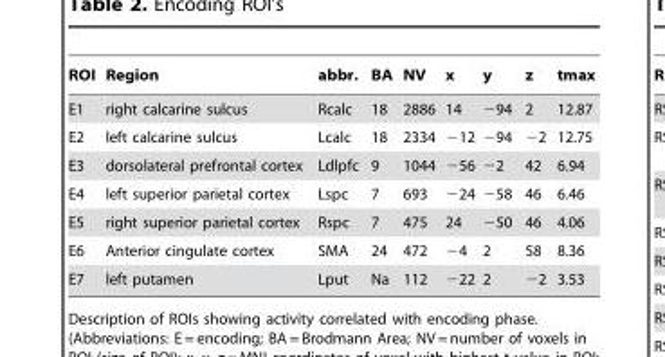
<table><thead><tr><td>ROI</td><td>Region</td><td>abbr.</td><td>BA</td><td>NV</td><td>x</td><td>y</td><td>z</td><td>tmax</td></tr></thead><tbody><tr><td>E1</td><td>right calcarine sulcus</td><td>Rcalc</td><td>18</td><td>2886</td><td>14</td><td>−94</td><td>2</td><td>12.87</td></tr><tr><td>E2</td><td>left calcarine sulcus</td><td>Lcalc</td><td>18</td><td>2334</td><td>−12</td><td>−94</td><td>−2</td><td>12.75</td></tr><tr><td>E3</td><td>dorsolateral prefrontal cortex</td><td>Ldlpfc</td><td>9</td><td>1044</td><td>−56</td><td>−2</td><td>42</td><td>6.94</td></tr><tr><td>E4</td><td>left superior parietal cortex</td><td>Lspc</td><td>7</td><td>693</td><td>−24</td><td>−58</td><td>46</td><td>6.46</td></tr><tr><td>E5</td><td>right superior parietal cortex</td><td>Rspc</td><td>7</td><td>475</td><td>24</td><td>−50</td><td>46</td><td>4.06</td></tr><tr><td>E6</td><td>Anterior cingulate cortex</td><td>SMA</td><td>24</td><td>472</td><td>−4</td><td>2</td><td>58</td><td>8.36</td></tr><tr><td>E7</td><td>left putamen</td><td>Lput</td><td>Na</td><td>112</td><td>−22</td><td>2</td><td>−2</td><td>3.53</td></tr></tbody></table>